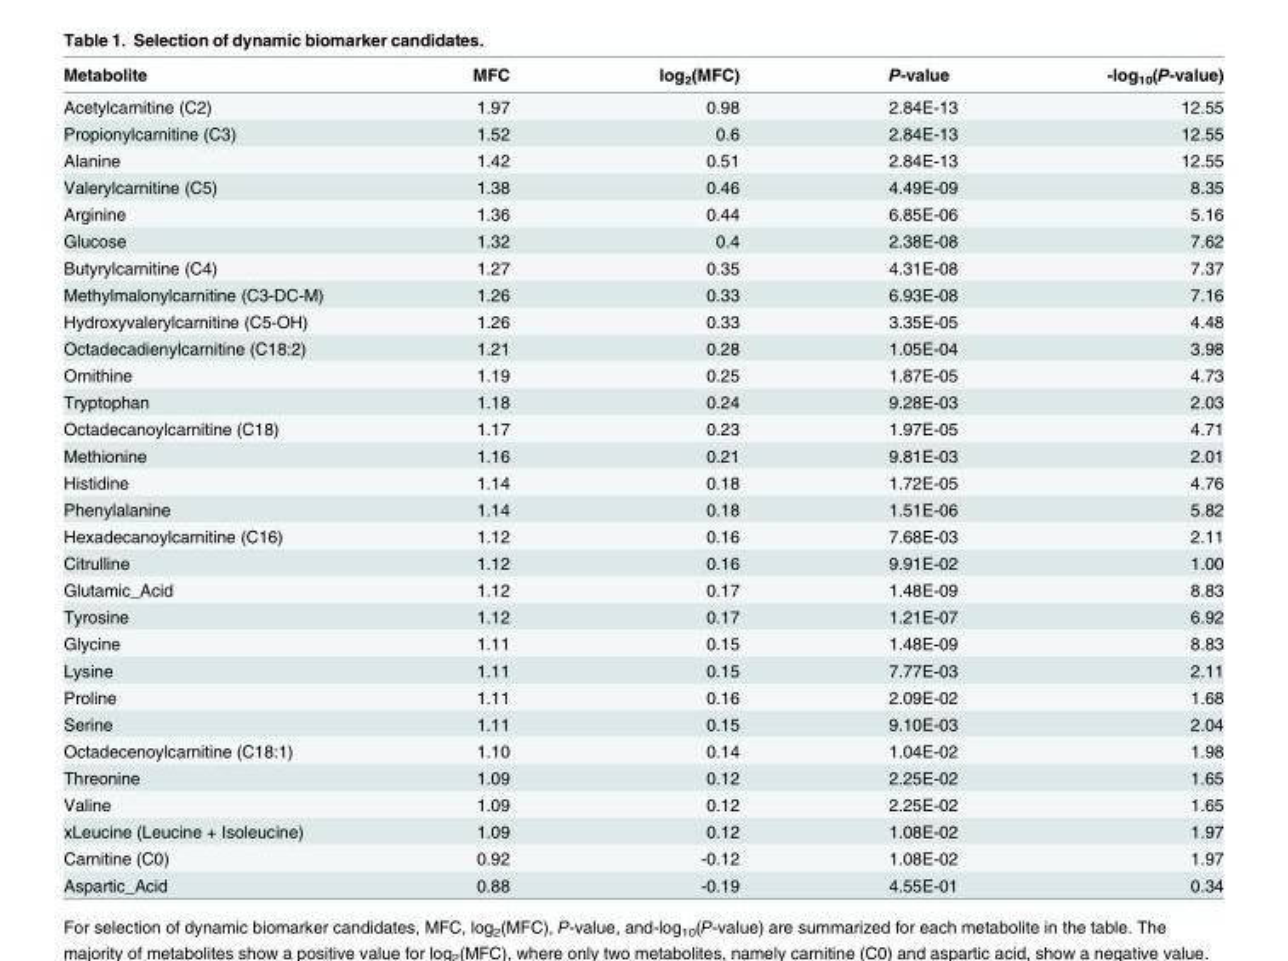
<table><thead><tr><td>Metabolite</td><td>MFC</td><td>log<sub>2</sub>(MFC)</td><td>P-value</td><td>-log<sub>10</sub>(P-value)</td></tr></thead><tbody><tr><td>Acetylcarnitine (C2)</td><td>1.97</td><td>0.98</td><td>2.84E-13</td><td>12.55</td></tr><tr><td>Propionylcarnitine (C3)</td><td>1.52</td><td>0.6</td><td>2.84E-13</td><td>12.55</td></tr><tr><td>Alanine</td><td>1.42</td><td>0.51</td><td>2.84E-13</td><td>12.55</td></tr><tr><td>Valerylcarnitine (C5)</td><td>1.38</td><td>0.46</td><td>4.49E-09</td><td>8.35</td></tr><tr><td>Arginine</td><td>1.36</td><td>0.44</td><td>6.85E-06</td><td>5.16</td></tr><tr><td>Glucose</td><td>1.32</td><td>0.4</td><td>2.38E-08</td><td>7.62</td></tr><tr><td>Butyrylcarnitine (C4)</td><td>1.27</td><td>0.35</td><td>4.31E-08</td><td>7.37</td></tr><tr><td>Methylmalonylcarnitine (C3-DC-M)</td><td>1.26</td><td>0.33</td><td>6.93E-08</td><td>7.16</td></tr><tr><td>Hydroxyvalerylcarnitine (C5-OH)</td><td>1.26</td><td>0.33</td><td>3.35E-05</td><td>4.48</td></tr><tr><td>Octadecadienylcarnitine (C18:2)</td><td>1.21</td><td>0.28</td><td>1.05E-04</td><td>3.98</td></tr><tr><td>Ornithine</td><td>1.19</td><td>0.25</td><td>1.87E-05</td><td>4.73</td></tr><tr><td>Tryptophan</td><td>1.18</td><td>0.24</td><td>9.28E-03</td><td>2.03</td></tr><tr><td>Octadecanoylcarnitine (C18)</td><td>1.17</td><td>0.23</td><td>1.97E-05</td><td>4.71</td></tr><tr><td>Methionine</td><td>1.16</td><td>0.21</td><td>9.81E-03</td><td>2.01</td></tr><tr><td>Histidine</td><td>1.14</td><td>0.18</td><td>1.72E-05</td><td>4.76</td></tr><tr><td>Phenylalanine</td><td>1.14</td><td>0.18</td><td>1.51E-06</td><td>5.82</td></tr><tr><td>Hexadecanoylcarnitine (C16)</td><td>1.12</td><td>0.16</td><td>7.68E-03</td><td>2.11</td></tr><tr><td>Citrulline</td><td>1.12</td><td>0.16</td><td>9.91E-02</td><td>1.00</td></tr><tr><td>Glutamic_Acid</td><td>1.12</td><td>0.17</td><td>1.48E-09</td><td>8.83</td></tr><tr><td>Tyrosine</td><td>1.12</td><td>0.17</td><td>1.21E-07</td><td>6.92</td></tr><tr><td>Glycine</td><td>1.11</td><td>0.15</td><td>1.48E-09</td><td>8.83</td></tr><tr><td>Lysine</td><td>1.11</td><td>0.15</td><td>7.77E-03</td><td>2.11</td></tr><tr><td>Proline</td><td>1.11</td><td>0.16</td><td>2.09E-02</td><td>1.68</td></tr><tr><td>Serine</td><td>1.11</td><td>0.15</td><td>9.10E-03</td><td>2.04</td></tr><tr><td>Octadecenoylcarnitine (C18:1)</td><td>1.10</td><td>0.14</td><td>1.04E-02</td><td>1.98</td></tr><tr><td>Threonine</td><td>1.09</td><td>0.12</td><td>2.25E-02</td><td>1.65</td></tr><tr><td>Valine</td><td>1.09</td><td>0.12</td><td>2.25E-02</td><td>1.65</td></tr><tr><td>xLeucine (Leucine + Isoleucine)</td><td>1.09</td><td>0.12</td><td>1.08E-02</td><td>1.97</td></tr><tr><td>Carnitine (C0)</td><td>0.92</td><td>-0.12</td><td>1.08E-02</td><td>1.97</td></tr><tr><td>Aspartic_Acid</td><td>0.88</td><td>-0.19</td><td>4.55E-01</td><td>0.34</td></tr></tbody></table>